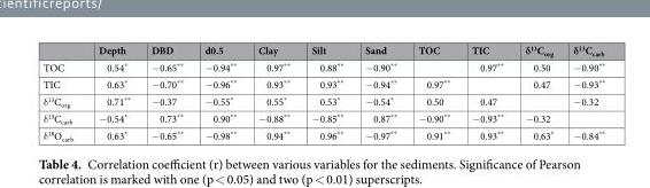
<table><thead><tr><td></td><td>Depth</td><td>DBD</td><td>d0.5</td><td>Clay</td><td>Silt</td><td>Sand</td><td>TOC</td><td>TIC</td><td>δ<sup>13</sup>C<sub>org</sub></td><td>δ<sup>13</sup>C<sub>carb</sub></td></tr></thead><tbody><tr><td>TOC</td><td>0.54*</td><td>−0.65**</td><td>−0.94**</td><td>0.97**</td><td>0.88**</td><td>−0.90**</td><td></td><td>0.97**</td><td>0.50</td><td>−0.90**</td></tr><tr><td>TIC</td><td>0.63*</td><td>−0.70**</td><td>−0.96**</td><td>0.93**</td><td>0.93**</td><td>−0.94**</td><td>0.97**</td><td></td><td>0.47</td><td>−0.93**</td></tr><tr><td>δ<sup>13</sup>C<sub>org</sub></td><td>0.71**</td><td>−0.37</td><td>−0.55*</td><td>0.55*</td><td>0.53*</td><td>−0.54*</td><td>0.50</td><td>0.47</td><td></td><td>−0.32</td></tr><tr><td>δ<sup>13</sup>C<sub>carb</sub></td><td>−0.54*</td><td>0.73**</td><td>0.90**</td><td>−0.88**</td><td>−0.85**</td><td>0.87**</td><td>−0.90**</td><td>−0.93**</td><td>−0.32</td><td></td></tr><tr><td>δ<sup>18</sup>O<sub>carb</sub></td><td>0.63*</td><td>−0.65**</td><td>−0.98**</td><td>0.94**</td><td>0.96**</td><td>−0.97**</td><td>0.91**</td><td>0.93**</td><td>0.63*</td><td>−0.84**</td></tr></tbody></table>